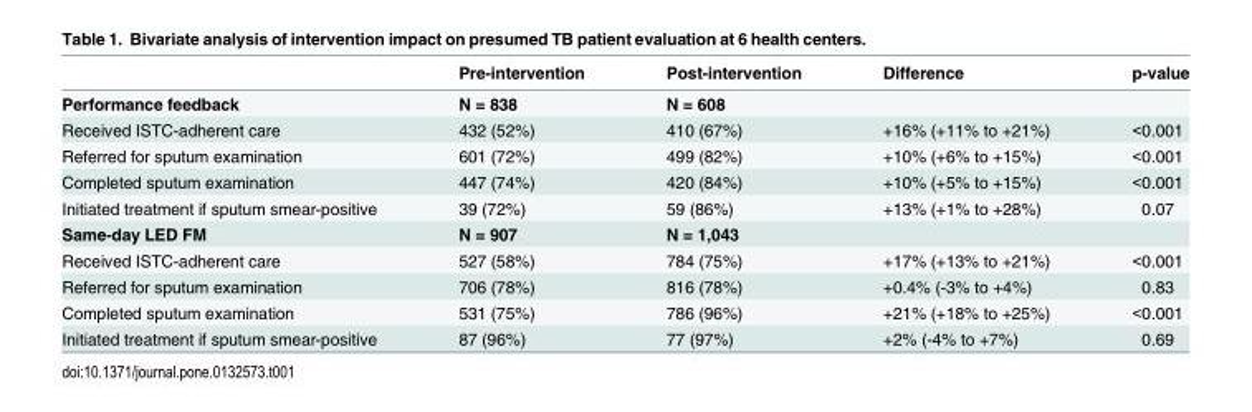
<table><thead><tr><td></td><td>Pre-intervention</td><td>Post-intervention</td><td>Difference</td><td>p-value</td></tr></thead><tbody><tr><td>Performance feedback</td><td>N = 838</td><td>N = 608</td><td></td><td></td></tr><tr><td>Received ISTC-adherent care</td><td>432 (52%)</td><td>410 (67%)</td><td>+16% (+11% to +21%)</td><td>&lt;0.001</td></tr><tr><td>Referred for sputum examination</td><td>601 (72%)</td><td>499 (82%)</td><td>+10% (+6% to +15%)</td><td>&lt;0.001</td></tr><tr><td>Completed sputum examination</td><td>447 (74%)</td><td>420 (84%)</td><td>+10% (+5% to +15%)</td><td>&lt;0.001</td></tr><tr><td>Initiated treatment if sputum smear-positive</td><td>39 (72%)</td><td>59 (86%)</td><td>+13% (+1% to +28%)</td><td>0.07</td></tr><tr><td>Same-day LED FM</td><td>N = 907</td><td>N = 1,043</td><td></td><td></td></tr><tr><td>Received ISTC-adherent care</td><td>527 (58%)</td><td>784 (75%)</td><td>+17% (+13% to +21%)</td><td>&lt;0.001</td></tr><tr><td>Referred for sputum examination</td><td>706 (78%)</td><td>816 (78%)</td><td>+0.4% (-3% to +4%)</td><td>0.83</td></tr><tr><td>Completed sputum examination</td><td>531 (75%)</td><td>786 (96%)</td><td>+21% (+18% to +25%)</td><td>&lt;0.001</td></tr><tr><td>Initiated treatment if sputum smear-positive</td><td>87 (96%)</td><td>77 (97%)</td><td>+2% (-4% to +7%)</td><td>0.69</td></tr></tbody></table>